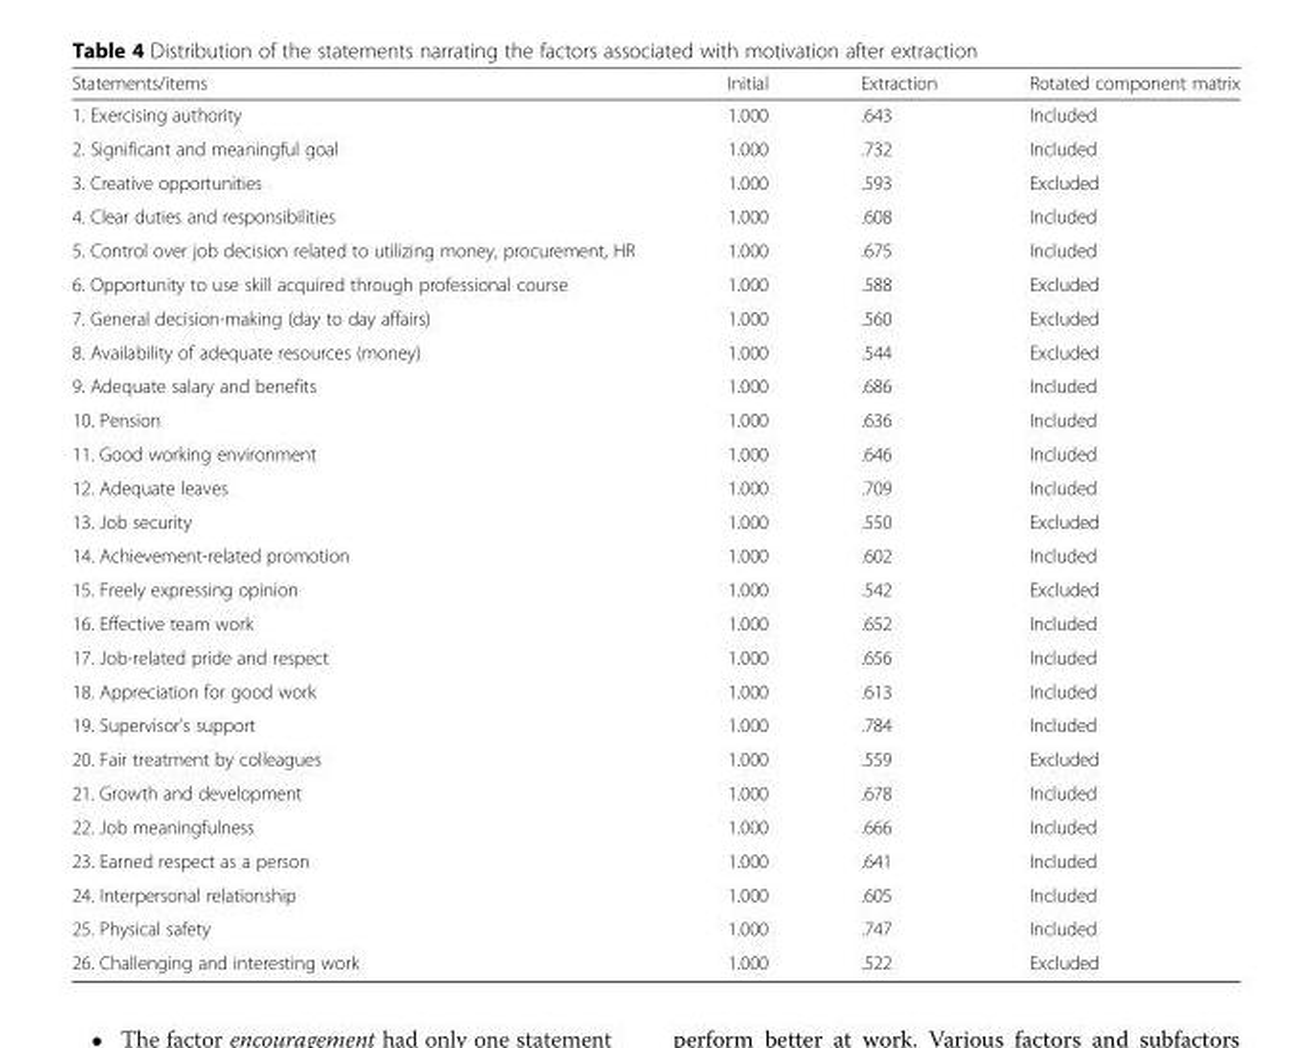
<table><thead><tr><td>Statements/items</td><td>Initial</td><td>Extraction</td><td>Rotated component matrix</td></tr></thead><tbody><tr><td>1. Exercising authority</td><td>1.000</td><td>.643</td><td>Included</td></tr><tr><td>2. Significant and meaningful goal</td><td>1.000</td><td>.732</td><td>Included</td></tr><tr><td>3. Creative opportunities</td><td>1.000</td><td>.593</td><td>Excluded</td></tr><tr><td>4. Clear duties and responsibilities</td><td>1.000</td><td>.608</td><td>Included</td></tr><tr><td>5. Control over job decision related to utilizing money, procurement, HR</td><td>1.000</td><td>.675</td><td>Included</td></tr><tr><td>6. Opportunity to use skill acquired through professional course</td><td>1.000</td><td>.588</td><td>Excluded</td></tr><tr><td>7. General decision-making (day to day affairs)</td><td>1.000</td><td>.560</td><td>Excluded</td></tr><tr><td>8. Availability of adequate resources (money)</td><td>1.000</td><td>.544</td><td>Excluded</td></tr><tr><td>9. Adequate salary and benefits</td><td>1.000</td><td>.686</td><td>Included</td></tr><tr><td>10. Pension</td><td>1.000</td><td>.636</td><td>Included</td></tr><tr><td>11. Good working environment</td><td>1.000</td><td>.646</td><td>Included</td></tr><tr><td>12. Adequate leaves</td><td>1.000</td><td>.709</td><td>Included</td></tr><tr><td>13. Job security</td><td>1.000</td><td>.550</td><td>Excluded</td></tr><tr><td>14. Achievement-related promotion</td><td>1.000</td><td>.602</td><td>Included</td></tr><tr><td>15. Freely expressing opinion</td><td>1.000</td><td>.542</td><td>Excluded</td></tr><tr><td>16. Effective team work</td><td>1.000</td><td>.652</td><td>Included</td></tr><tr><td>17. Job-related pride and respect</td><td>1.000</td><td>.656</td><td>Included</td></tr><tr><td>18. Appreciation for good work</td><td>1.000</td><td>.613</td><td>Included</td></tr><tr><td>19. Supervisor’s support</td><td>1.000</td><td>.784</td><td>Included</td></tr><tr><td>20. Fair treatment by colleagues</td><td>1.000</td><td>.559</td><td>Excluded</td></tr><tr><td>21. Growth and development</td><td>1.000</td><td>.678</td><td>Included</td></tr><tr><td>22. Job meaningfulness</td><td>1.000</td><td>.666</td><td>Included</td></tr><tr><td>23. Earned respect as a person</td><td>1.000</td><td>.641</td><td>Included</td></tr><tr><td>24. Interpersonal relationship</td><td>1.000</td><td>.605</td><td>Included</td></tr><tr><td>25. Physical safety</td><td>1.000</td><td>.747</td><td>Included</td></tr><tr><td>26. Challenging and interesting work</td><td>1.000</td><td>.522</td><td>Excluded</td></tr></tbody></table>